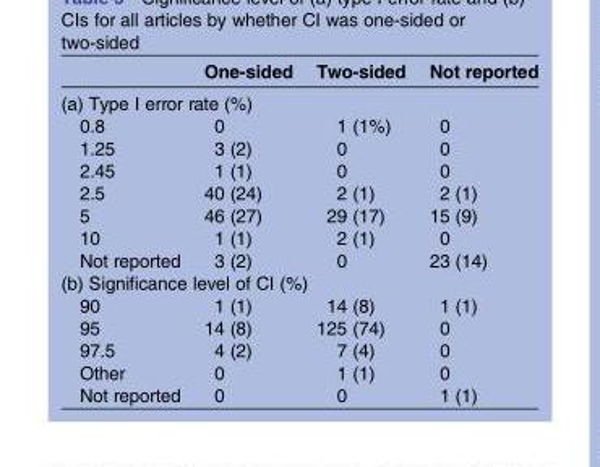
<table><thead><tr><td></td><td>One-sided</td><td>Two-sided</td><td>Not reported</td></tr></thead><tbody><tr><td colspan="4">(a) Type I error rate (%)</td></tr><tr><td>0.8</td><td>0</td><td>1 (1%)</td><td>0</td></tr><tr><td>1.25</td><td>3 (2)</td><td>0</td><td>0</td></tr><tr><td>2.45</td><td>1 (1)</td><td>0</td><td>0</td></tr><tr><td>2.5</td><td>40 (24)</td><td>2 (1)</td><td>2 (1)</td></tr><tr><td>5</td><td>46 (27)</td><td>29 (17)</td><td>15 (9)</td></tr><tr><td>10</td><td>1 (1)</td><td>2 (1)</td><td>0</td></tr><tr><td>Not reported</td><td>3 (2)</td><td>0</td><td>23 (14)</td></tr><tr><td colspan="4">(b) Significance level of CI (%)</td></tr><tr><td>90</td><td>1 (1)</td><td>14 (8)</td><td>1 (1)</td></tr><tr><td>95</td><td>14 (8)</td><td>125 (74)</td><td>0</td></tr><tr><td>97.5</td><td>4 (2)</td><td>7 (4)</td><td>0</td></tr><tr><td>Other</td><td>0</td><td>1 (1)</td><td>0</td></tr><tr><td>Not reported</td><td>0</td><td>0</td><td>1 (1)</td></tr></tbody></table>